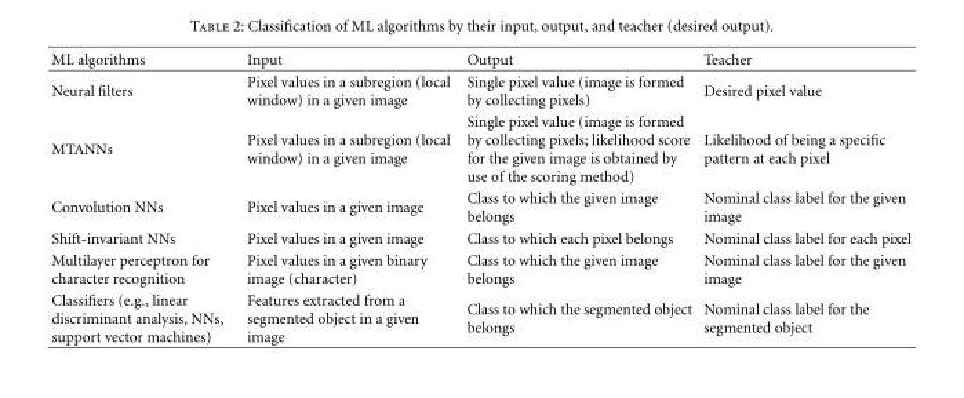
<table><thead><tr><td>ML algorithms</td><td>Input</td><td>Output</td><td>Teacher</td></tr></thead><tbody><tr><td>Neural filters</td><td>Pixel values in a subregion (local window) in a given image</td><td>Single pixel value (image is formed by collecting pixels)</td><td>Desired pixel value</td></tr><tr><td>MTANNs</td><td>Pixel values in a subregion (local window) in a given image</td><td>Single pixel value (image is formed by collecting pixels; likelihood score for the given image is obtained by use of the scoring method)</td><td>Likelihood of being a specific pattern at each pixel</td></tr><tr><td>Convolution NNs</td><td>Pixel values in a given image</td><td>Class to which the given image belongs</td><td>Nominal class label for the given image</td></tr><tr><td>Shift-invariant NNs</td><td>Pixel values in a given image</td><td>Class to which each pixel belongs</td><td>Nominal class label for each pixel</td></tr><tr><td>Multilayer perceptron for character recognition</td><td>Pixel values in a given binary image (character)</td><td>Class to which the given image belongs</td><td>Nominal class label for the given image</td></tr><tr><td>Classifiers (e.g., linear discriminant analysis, NNs, support vector machines)</td><td>Features extracted from a segmented object in a given image</td><td>Class to which the segmented object belongs</td><td>Nominal class label for the segmented object</td></tr></tbody></table>